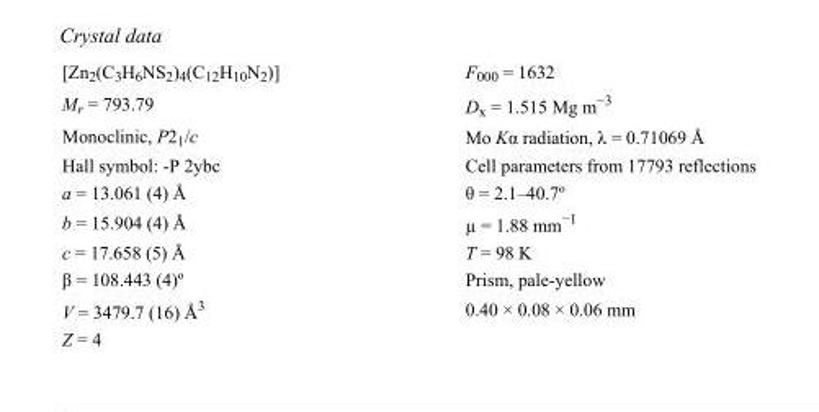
<table><tbody><tr><td>[Zn<sub>2</sub>(C<sub>3</sub>H<sub>6</sub>NS<sub>2</sub>)<sub>4</sub>(C<sub>12</sub>H<sub>10</sub>N<sub>2</sub>)]</td><td>F000 = 1632</td></tr><tr><td>M<sub>r</sub> = 793.79</td><td>D<sub>x</sub> = 1.515 Mg m<sup>−3</sup></td></tr><tr><td>Monoclinic, P2<sub>1</sub>/c</td><td>Mo Kα radiation, λ = 0.71069 Å</td></tr><tr><td>Hall symbol: -P 2ybc</td><td>Cell parameters from 17793 reflections</td></tr><tr><td>a = 13.061 (4) Å</td><td>θ = 2.1–40.7º</td></tr><tr><td>b = 15.904 (4) Å</td><td>µ = 1.88 mm<sup>−1</sup></td></tr><tr><td>c = 17.658 (5) Å</td><td>T = 98 K</td></tr><tr><td>β = 108.443 (4)º</td><td>Prism, pale-yellow</td></tr><tr><td>V = 3479.7 (16) Å<sup>3</sup></td><td>0.40 × 0.08 × 0.06 mm</td></tr><tr><td>Z = 4</td><td></td></tr></tbody></table>